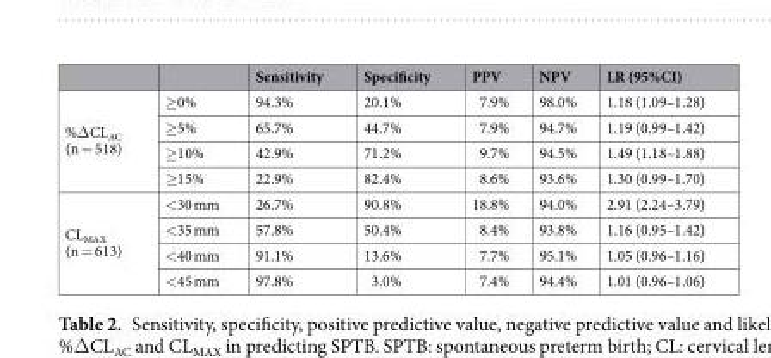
<table><thead><tr><td></td><td></td><td>Sensitivity</td><td>Specificity</td><td>PPV</td><td>NPV</td><td>LR (95%CI)</td></tr></thead><tbody><tr><td rowspan="4">%ΔCL<sub>AC</sub> (n = 518)</td><td>≥0%</td><td>94.3%</td><td>20.1%</td><td>7.9%</td><td>98.0%</td><td>1.18 (1.09–1.28)</td></tr><tr><td>≥5%</td><td>65.7%</td><td>44.7%</td><td>7.9%</td><td>94.7%</td><td>1.19 (0.99–1.42)</td></tr><tr><td>≥10%</td><td>42.9%</td><td>71.2%</td><td>9.7%</td><td>94.5%</td><td>1.49 (1.18–1.88)</td></tr><tr><td>≥15%</td><td>22.9%</td><td>82.4%</td><td>8.6%</td><td>93.6%</td><td>1.30 (0.99–1.70)</td></tr><tr><td rowspan="4">CL<sub>MAX</sub> (n = 613)</td><td>&lt;30 mm</td><td>26.7%</td><td>90.8%</td><td>18.8%</td><td>94.0%</td><td>2.91 (2.24–3.79)</td></tr><tr><td>&lt;35 mm</td><td>57.8%</td><td>50.4%</td><td>8.4%</td><td>93.8%</td><td>1.16 (0.95–1.42)</td></tr><tr><td>&lt;40 mm</td><td>91.1%</td><td>13.6%</td><td>7.7%</td><td>95.1%</td><td>1.05 (0.96–1.16)</td></tr><tr><td>&lt;45 mm</td><td>97.8%</td><td>3.0%</td><td>7.4%</td><td>94.4%</td><td>1.01 (0.96–1.06)</td></tr></tbody></table>